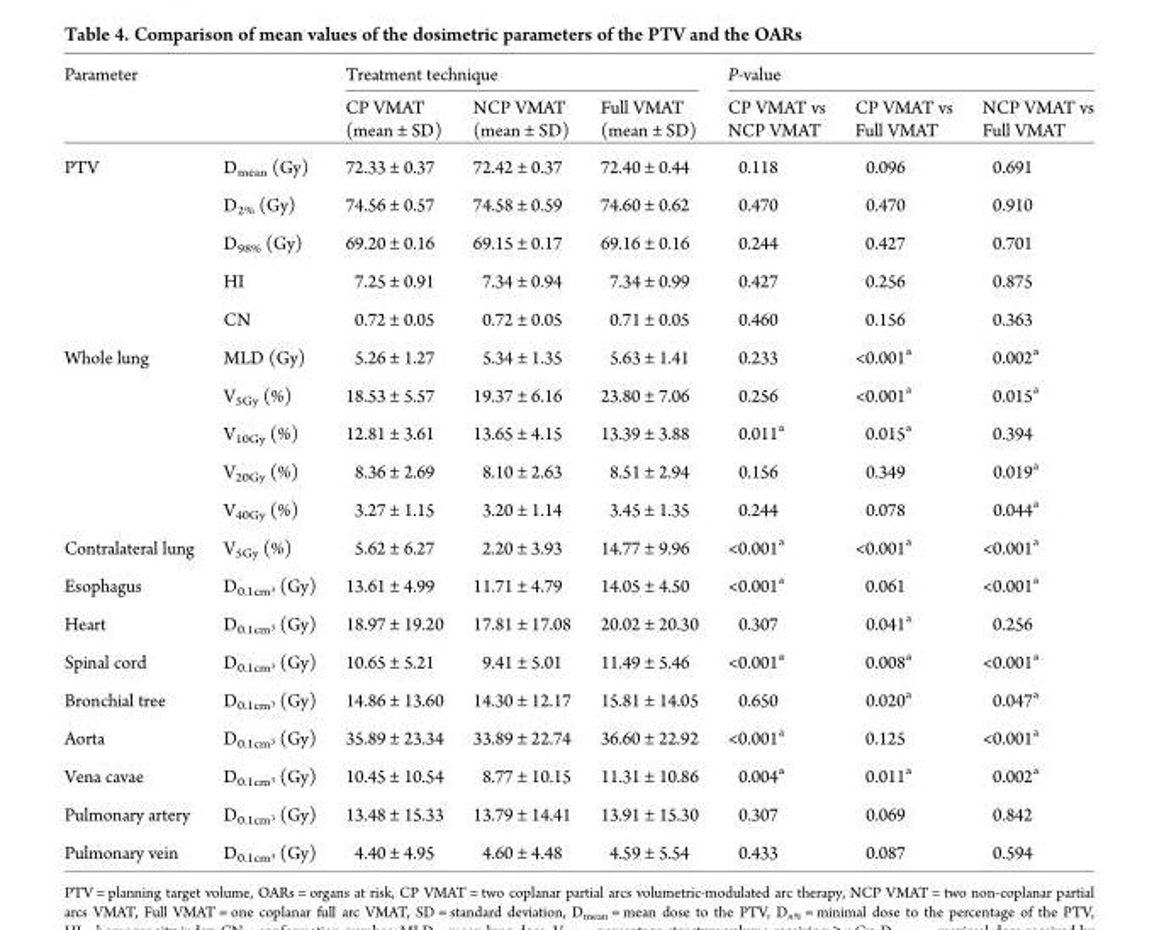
<table><thead><tr><td rowspan="2" colspan="2">Parameter</td><td colspan="3">Treatment technique</td><td colspan="3">P-value</td></tr><tr><td rowspan="2">CP VMAT (mean ± SD) 72.33 ± 0.37</td><td rowspan="2">NCP VMAT (mean ± SD) 72.42 ± 0.37</td><td rowspan="2">Full VMAT (mean ± SD) 72.40 ± 0.44</td><td rowspan="2">CP VMAT vs NCP VMAT 0.118</td><td rowspan="2">CP VMAT vs Full VMAT 0.096</td><td rowspan="2">NCP VMAT vs Full VMAT 0.691</td></tr><tr><td>PTV</td><td>D<sub>mean</sub> (Gy)</td></tr></thead><tbody><tr><td></td><td>D<sub>2%</sub> (Gy)</td><td>74.56 ± 0.57</td><td>74.58 ± 0.59</td><td>74.60 ± 0.62</td><td>0.470</td><td>0.470</td><td>0.910</td></tr><tr><td></td><td>D<sub>98%</sub> (Gy)</td><td>69.20 ± 0.16</td><td>69.15 ± 0.17</td><td>69.16 ± 0.16</td><td>0.244</td><td>0.427</td><td>0.701</td></tr><tr><td></td><td>HI</td><td>7.25 ± 0.91</td><td>7.34 ± 0.94</td><td>7.34 ± 0.99</td><td>0.427</td><td>0.256</td><td>0.875</td></tr><tr><td></td><td>CN</td><td>0.72 ± 0.05</td><td>0.72 ± 0.05</td><td>0.71 ± 0.05</td><td>0.460</td><td>0.156</td><td>0.363</td></tr><tr><td rowspan="5">Whole lung</td><td>MLD (Gy)</td><td>5.26 ± 1.27</td><td>5.34 ± 1.35</td><td>5.63 ± 1.41</td><td>0.233</td><td>&lt;0.001<sup>a</sup></td><td>0.002<sup>a</sup></td></tr><tr><td>V<sub>5Gy</sub> (%)</td><td>18.53 ± 5.57</td><td>19.37 ± 6.16</td><td>23.80 ± 7.06</td><td>0.256</td><td>&lt;0.001<sup>a</sup></td><td>0.015<sup>a</sup></td></tr><tr><td>V<sub>10Gy</sub> (%)</td><td>12.81 ± 3.61</td><td>13.65 ± 4.15</td><td>13.39 ± 3.88</td><td>0.011<sup>a</sup></td><td>0.015<sup>a</sup></td><td>0.394</td></tr><tr><td>V<sub>20Gy</sub> (%)</td><td>8.36 ± 2.69</td><td>8.10 ± 2.63</td><td>8.51 ± 2.94</td><td>0.156</td><td>0.349</td><td>0.019<sup>a</sup></td></tr><tr><td>V<sub>40Gy</sub> (%)</td><td>3.27 ± 1.15</td><td>3.20 ± 1.14</td><td>3.45 ± 1.35</td><td>0.244</td><td>0.078</td><td>0.044<sup>a</sup></td></tr><tr><td>Contralateral lung</td><td>V<sub>5Gy</sub> (%)</td><td>5.62 ± 6.27</td><td>2.20 ± 3.93</td><td>14.77 ± 9.96</td><td>&lt;0.001<sup>a</sup></td><td>&lt;0.001<sup>a</sup></td><td>&lt;0.001<sup>a</sup></td></tr><tr><td>Esophagus</td><td>D<sub>0.1cm</sub><sup><sub>3</sub></sup> (Gy)</td><td>13.61 ± 4.99</td><td>11.71 ± 4.79</td><td>14.05 ± 4.50</td><td>&lt;0.001<sup>a</sup></td><td>0.061</td><td>&lt;0.001<sup>a</sup></td></tr><tr><td>Heart</td><td>D<sub>0.1cm</sub><sup><sub>3</sub></sup> (Gy)</td><td>18.97 ± 19.20</td><td>17.81 ± 17.08</td><td>20.02 ± 20.30</td><td>0.307</td><td>0.041<sup>a</sup></td><td>0.256</td></tr><tr><td>Spinal cord</td><td>D<sub>0.1cm</sub><sup><sub>3</sub></sup> (Gy)</td><td>10.65 ± 5.21</td><td>9.41 ± 5.01</td><td>11.49 ± 5.46</td><td>&lt;0.001<sup>a</sup></td><td>0.008<sup>a</sup></td><td>&lt;0.001<sup>a</sup></td></tr><tr><td>Bronchial tree</td><td>D<sub>0.1cm</sub><sup><sub>3</sub></sup> (Gy)</td><td>14.86 ± 13.60</td><td>14.30 ± 12.17</td><td>15.81 ± 14.05</td><td>0.650</td><td>0.020<sup>a</sup></td><td>0.047<sup>a</sup></td></tr><tr><td>Aorta</td><td>D<sub>0.1cm</sub><sup><sub>3</sub></sup> (Gy)</td><td>35.89 ± 23.34</td><td>33.89 ± 22.74</td><td>36.60 ± 22.92</td><td>&lt;0.001<sup>a</sup></td><td>0.125</td><td>&lt;0.001<sup>a</sup></td></tr><tr><td>Vena cavae</td><td>D<sub>0.1cm</sub><sup><sub>3</sub></sup> (Gy)</td><td>10.45 ± 10.54</td><td>8.77 ± 10.15</td><td>11.31 ± 10.86</td><td>0.004<sup>a</sup></td><td>0.011<sup>a</sup></td><td>0.002<sup>a</sup></td></tr><tr><td>Pulmonary artery</td><td>D<sub>0.1cm</sub><sup><sub>3</sub></sup> (Gy)</td><td>13.48 ± 15.33</td><td>13.79 ± 14.41</td><td>13.91 ± 15.30</td><td>0.307</td><td>0.069</td><td>0.842</td></tr><tr><td>Pulmonary vein</td><td>D<sub>0.1cm</sub><sup><sub>3</sub></sup> (Gy)</td><td>4.40 ± 4.95</td><td>4.60 ± 4.48</td><td>4.59 ± 5.54</td><td>0.433</td><td>0.087</td><td>0.594</td></tr></tbody></table>